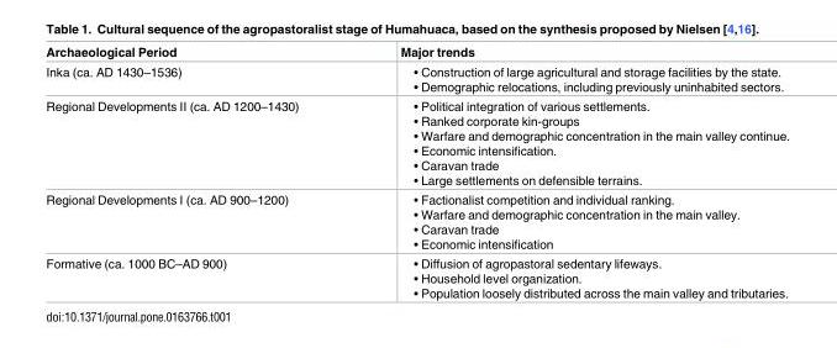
<table><thead><tr><td>Archaeological Period</td><td>Major trends</td></tr></thead><tbody><tr><td>Inka (ca. AD 1430–1536)</td><td>• Construction of large agricultural and storage facilities by the state. • Demographic relocations, including previously uninhabited sectors.</td></tr><tr><td>Regional Developments II (ca. AD 1200–1430)</td><td>• Political integration of various settlements. • Ranked corporate kin-groups • Warfare and demographic concentration in the main valley continue. • Economic intensification. • Caravan trade • Large settlements on defensible terrains.</td></tr><tr><td>Regional Developments I (ca. AD 900–1200)</td><td>• Factionalist competition and individual ranking. • Warfare and demographic concentration in the main valley. • Caravan trade • Economic intensification</td></tr><tr><td>Formative (ca. 1000 BC–AD 900)</td><td>• Diffusion of agropastoral sedentary lifeways. • Household level organization. • Population loosely distributed across the main valley and tributaries.</td></tr></tbody></table>